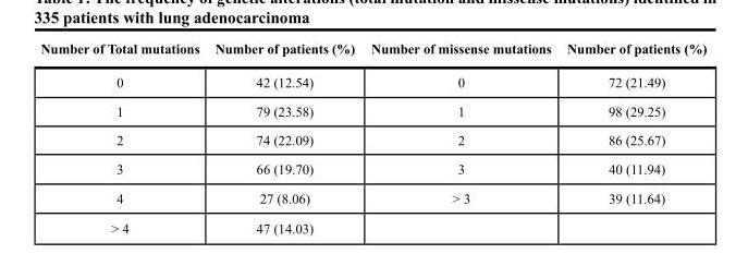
<table><thead><tr><td>Number of Total mutations</td><td>Number of patients (%)</td><td>Number of missense mutations</td><td>Number of patients (%)</td></tr></thead><tbody><tr><td>0</td><td>42 (12.54)</td><td>0</td><td>72 (21.49)</td></tr><tr><td>1</td><td>79 (23.58)</td><td>1</td><td>98 (29.25)</td></tr><tr><td>2</td><td>74 (22.09)</td><td>2</td><td>86 (25.67)</td></tr><tr><td>3</td><td>66 (19.70)</td><td>3</td><td>40 (11.94)</td></tr><tr><td>4</td><td>27 (8.06)</td><td>&gt; 3</td><td>39 (11.64)</td></tr><tr><td>&gt; 4</td><td>47 (14.03)</td><td></td><td></td></tr></tbody></table>